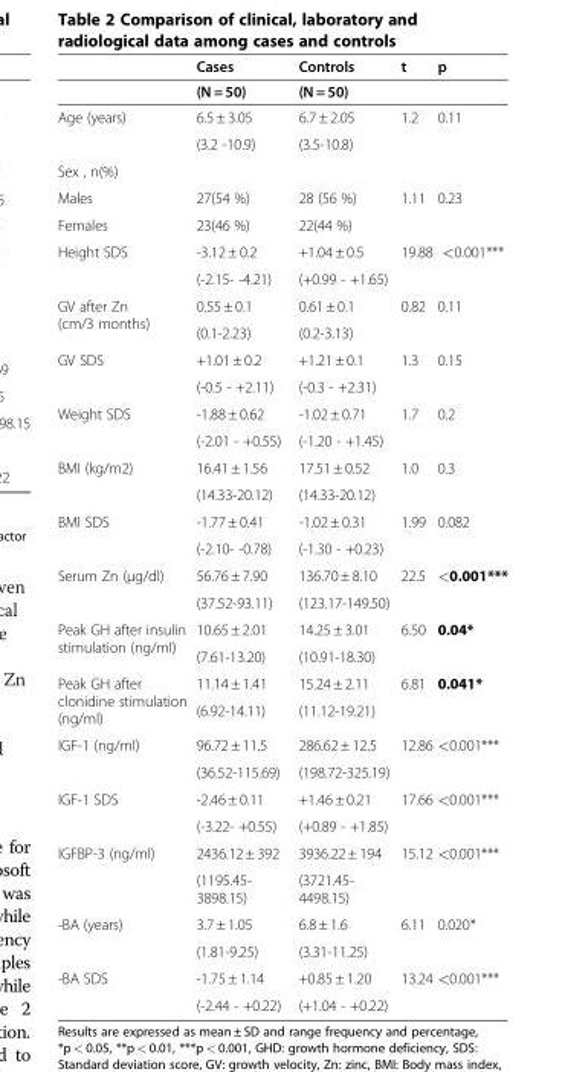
<table><thead><tr><td rowspan="2"></td><td rowspan="2">Cases (N = 50)</td><td rowspan="2">Controls (N = 50)</td><td rowspan="2">t</td><td rowspan="2">p</td></tr><tr></tr></thead><tbody><tr><td rowspan="2">Age (years)</td><td>6.5 ± 3.05</td><td>6.7 ± 2.05</td><td>1.2</td><td>0.11</td></tr><tr><td>(3.2 -10.9)</td><td>(3.5-10.8)</td><td></td><td></td></tr><tr><td colspan="5">Sex , n(%)</td></tr><tr><td>Males</td><td>27(54 %)</td><td>28 (56 %)</td><td>1.11</td><td>0.23</td></tr><tr><td>Females</td><td>23(46 %)</td><td>22(44 %)</td><td></td><td></td></tr><tr><td rowspan="2">Height SDS</td><td>-3.12 ± 0.2</td><td>+1.04 ± 0.5</td><td>19.88</td><td>&lt;0.001***</td></tr><tr><td>(-2.15- -4.21)</td><td>(+0.99 - +1.65)</td><td></td><td></td></tr><tr><td rowspan="2">GV after Zn (cm/3 months)</td><td>0.55 ± 0.1</td><td>0.61 ± 0.1</td><td>0.82</td><td>0.11</td></tr><tr><td>(0.1-2.23)</td><td>(0.2-3.13)</td><td></td><td></td></tr><tr><td rowspan="2">GV SDS</td><td>+1.01 ± 0.2</td><td>+1.21 ± 0.1</td><td>1.3</td><td>0.15</td></tr><tr><td>(-0.5 - +2.11)</td><td>(-0.3 - +2.31)</td><td></td><td></td></tr><tr><td rowspan="2">Weight SDS</td><td>-1.88 ± 0.62</td><td>-1.02 ± 0.71</td><td>1.7</td><td>0.2</td></tr><tr><td>(-2.01 - +0.55)</td><td>(-1.20 - +1.45)</td><td></td><td></td></tr><tr><td rowspan="2">BMI (kg/m2)</td><td>16.41 ± 1.56</td><td>17.51 ± 0.52</td><td>1.0</td><td>0.3</td></tr><tr><td>(14.33-20.12)</td><td>(14.33-20.12)</td><td></td><td></td></tr><tr><td rowspan="2">BMI SDS</td><td>-1.77 ± 0.41</td><td>-1.02 ± 0.31</td><td>1.99</td><td>0.082</td></tr><tr><td>(-2.10- -0.78)</td><td>(-1.30 - +0.23)</td><td></td><td></td></tr><tr><td rowspan="2">Serum Zn (μg/dl)</td><td>56.76 ± 7.90</td><td>136.70 ± 8.10</td><td>22.5</td><td>&lt;0.001***</td></tr><tr><td>(37.52-93.11)</td><td>(123.17-149.50)</td><td></td><td></td></tr><tr><td rowspan="2">Peak GH after insulin stimulation (ng/ml)</td><td>10.65 ± 2.01</td><td>14.25 ± 3.01</td><td>6.50</td><td>0.04*</td></tr><tr><td>(7.61-13.20)</td><td>(10.91-18.30)</td><td></td><td></td></tr><tr><td rowspan="2">Peak GH after clonidine stimulation (ng/ml)</td><td>11.14 ± 1.41</td><td>15.24 ± 2.11</td><td>6.81</td><td>0.041*</td></tr><tr><td>(6.92-14.11)</td><td>(11.12-19.21)</td><td></td><td></td></tr><tr><td rowspan="2">IGF-1 (ng/ml)</td><td>96.72 ± 11.5</td><td>286.62 ± 12.5</td><td>12.86</td><td>&lt;0.001***</td></tr><tr><td>(36.52-115.69)</td><td>(198.72-325.19)</td><td></td><td></td></tr><tr><td rowspan="2">IGF-1 SDS</td><td>-2.46 ± 0.11</td><td>+1.46 ± 0.21</td><td>17.66</td><td>&lt;0.001***</td></tr><tr><td>(-3.22- +0.55)</td><td>(+0.89 - +1.85)</td><td></td><td></td></tr><tr><td rowspan="2">IGFBP-3 (ng/ml)</td><td>2436.12 ± 392</td><td>3936.22 ± 194</td><td>15.12</td><td>&lt;0.001***</td></tr><tr><td>(1195.45- 3898.15)</td><td>(3721.45- 4498.15)</td><td></td><td></td></tr><tr><td rowspan="2">-BA (years)</td><td>3.7 ± 1.05</td><td>6.8 ± 1.6</td><td>6.11</td><td>0.020*</td></tr><tr><td>(1.81-9.25)</td><td>(3.31-11.25)</td><td></td><td></td></tr><tr><td rowspan="2">-BA SDS</td><td>-1.75 ± 1.14</td><td>+0.85 ± 1.20</td><td>13.24</td><td>&lt;0.001***</td></tr><tr><td>(-2.44 - +0.22)</td><td>(+1.04 - +0.22)</td><td></td><td></td></tr></tbody></table>